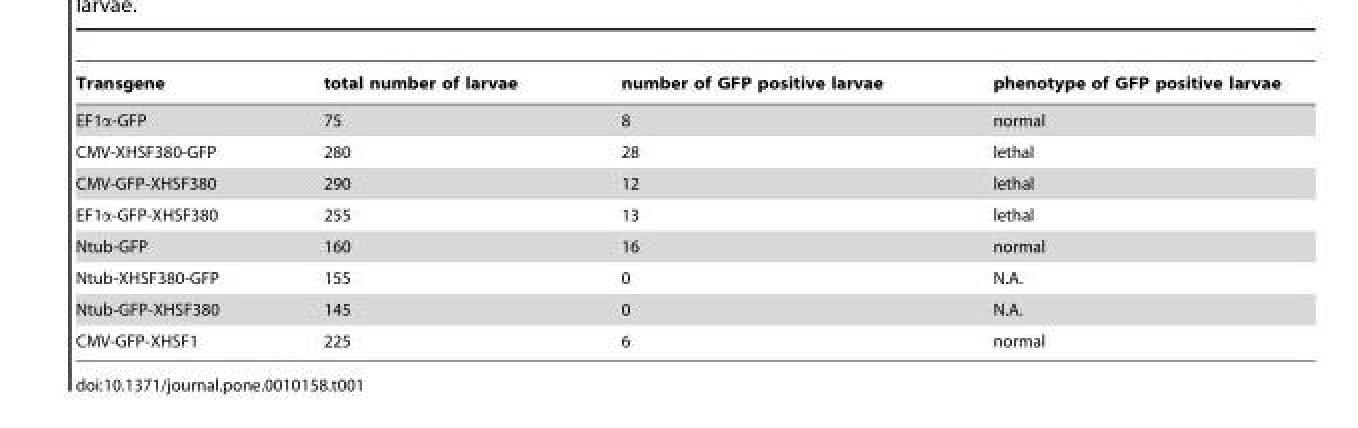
<table><thead><tr><td>Transgene</td><td>total number of larvae</td><td>number of GFP positive larvae</td><td>phenotype of GFP positive larvae</td></tr></thead><tbody><tr><td>EF1α-GFP</td><td>75</td><td>8</td><td>normal</td></tr><tr><td>CMV-XHSF380-GFP</td><td>280</td><td>28</td><td>lethal</td></tr><tr><td>CMV-GFP-XHSF380</td><td>290</td><td>12</td><td>lethal</td></tr><tr><td>EF1α-GFP-XHSF380</td><td>255</td><td>13</td><td>lethal</td></tr><tr><td>Ntub-GFP</td><td>160</td><td>16</td><td>normal</td></tr><tr><td>Ntub-XHSF380-GFP</td><td>155</td><td>0</td><td>N.A.</td></tr><tr><td>Ntub-GFP-XHSF380</td><td>145</td><td>0</td><td>N.A.</td></tr><tr><td>CMV-GFP-XHSF1</td><td>225</td><td>6</td><td>normal</td></tr></tbody></table>